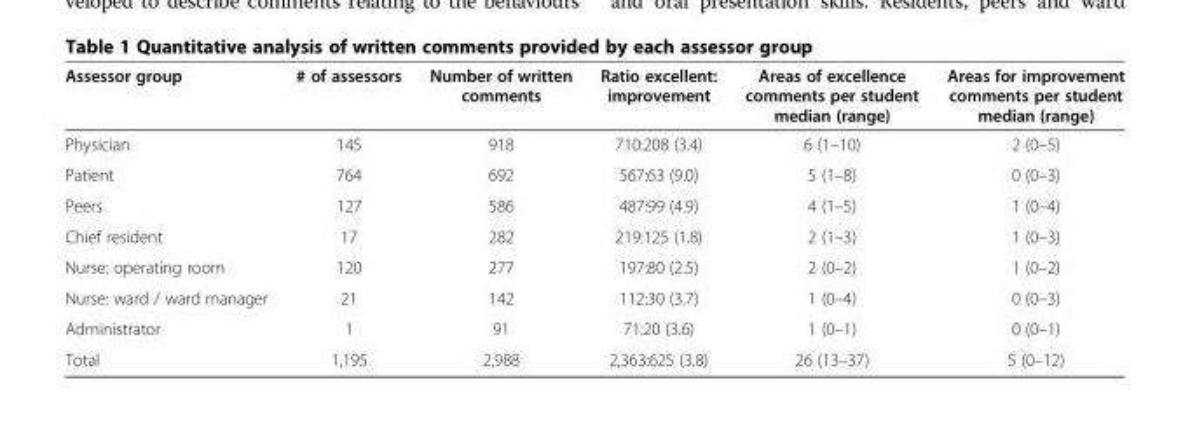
<table><thead><tr><td>Assessor group</td><td># of assessors</td><td>Number of written comments</td><td>Ratio excellent: improvement</td><td>Areas of excellence comments per student median (range)</td><td>Areas for improvement comments per student median (range)</td></tr></thead><tbody><tr><td>Physician</td><td>145</td><td>918</td><td>710:208 (3.4)</td><td>6 (1–10)</td><td>2 (0–5)</td></tr><tr><td>Patient</td><td>764</td><td>692</td><td>567:63 (9.0)</td><td>5 (1–8)</td><td>0 (0–3)</td></tr><tr><td>Peers</td><td>127</td><td>586</td><td>487:99 (4.9)</td><td>4 (1–5)</td><td>1 (0–4)</td></tr><tr><td>Chief resident</td><td>17</td><td>282</td><td>219:125 (1.8)</td><td>2 (1–3)</td><td>1 (0–3)</td></tr><tr><td>Nurse: operating room</td><td>120</td><td>277</td><td>197:80 (2.5)</td><td>2 (0–2)</td><td>1 (0–2)</td></tr><tr><td>Nurse: ward / ward manager</td><td>21</td><td>142</td><td>112:30 (3.7)</td><td>1 (0–4)</td><td>0 (0–3)</td></tr><tr><td>Administrator</td><td>1</td><td>91</td><td>71:20 (3.6)</td><td>1 (0–1)</td><td>0 (0–1)</td></tr><tr><td>Total</td><td>1,195</td><td>2,988</td><td>2,363:625 (3.8)</td><td>26 (13–37)</td><td>5 (0–12)</td></tr></tbody></table>